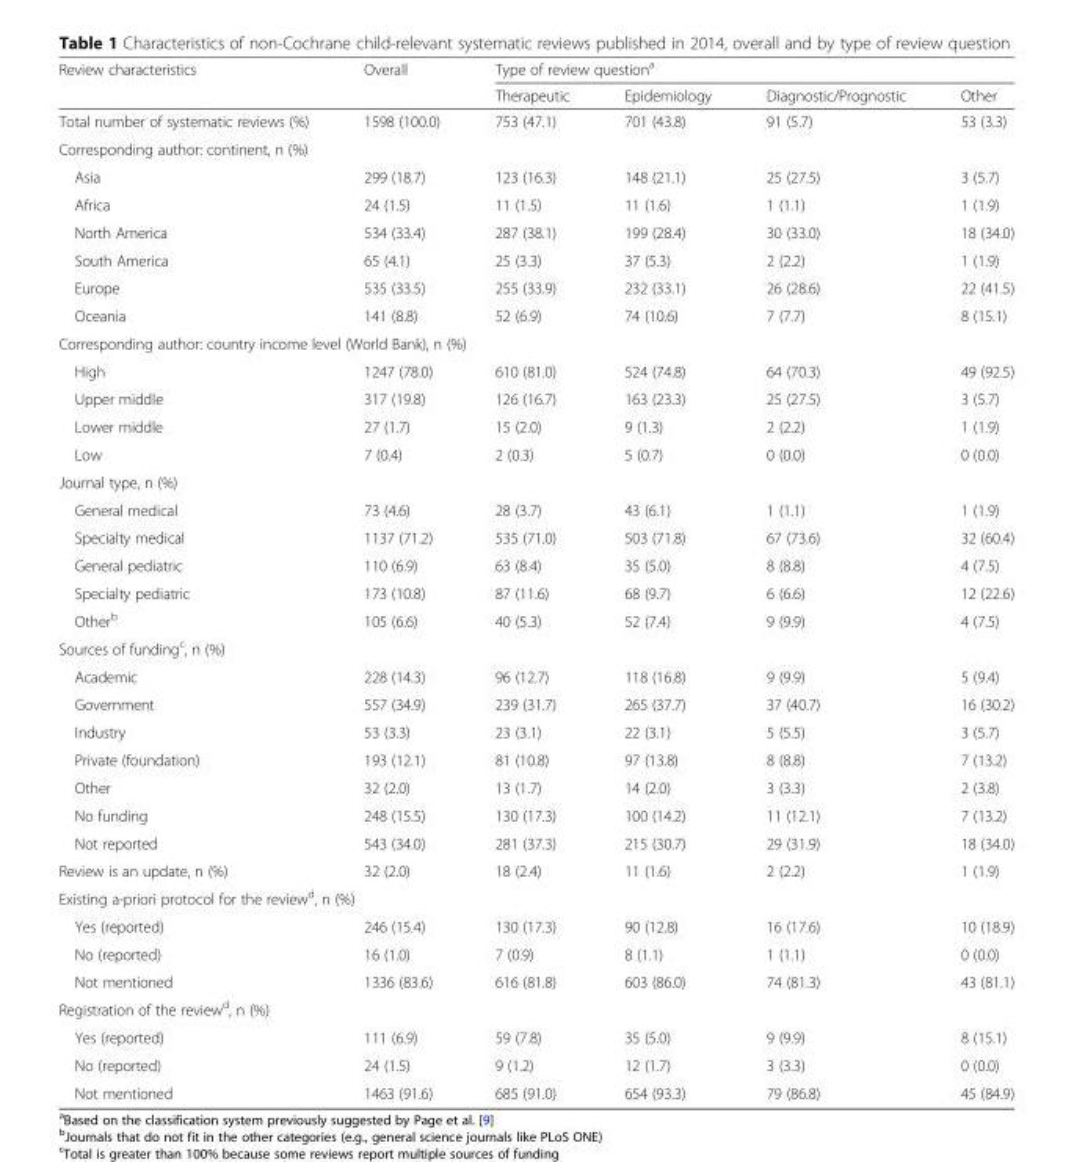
<table><thead><tr><td rowspan="2">Review characteristics</td><td rowspan="2">Overall</td><td colspan="4">Type of review question<sup>a</sup></td></tr><tr><td>Therapeutic</td><td>Epidemiology</td><td>Diagnostic/Prognostic</td><td>Other</td></tr></thead><tbody><tr><td>Total number of systematic reviews (%)</td><td>1598 (100.0)</td><td>753 (47.1)</td><td>701 (43.8)</td><td>91 (5.7)</td><td>53 (3.3)</td></tr><tr><td colspan="6">Corresponding author: continent, n (%)</td></tr><tr><td>Asia</td><td>299 (18.7)</td><td>123 (16.3)</td><td>148 (21.1)</td><td>25 (27.5)</td><td>3 (5.7)</td></tr><tr><td>Africa</td><td>24 (1.5)</td><td>11 (1.5)</td><td>11 (1.6)</td><td>1 (1.1)</td><td>1 (1.9)</td></tr><tr><td>North America</td><td>534 (33.4)</td><td>287 (38.1)</td><td>199 (28.4)</td><td>30 (33.0)</td><td>18 (34.0)</td></tr><tr><td>South America</td><td>65 (4.1)</td><td>25 (3.3)</td><td>37 (5.3)</td><td>2 (2.2)</td><td>1 (1.9)</td></tr><tr><td>Europe</td><td>535 (33.5)</td><td>255 (33.9)</td><td>232 (33.1)</td><td>26 (28.6)</td><td>22 (41.5)</td></tr><tr><td>Oceania</td><td>141 (8.8)</td><td>52 (6.9)</td><td>74 (10.6)</td><td>7 (7.7)</td><td>8 (15.1)</td></tr><tr><td colspan="6">Corresponding author: country income level (World Bank), n (%)</td></tr><tr><td>High</td><td>1247 (78.0)</td><td>610 (81.0)</td><td>524 (74.8)</td><td>64 (70.3)</td><td>49 (92.5)</td></tr><tr><td>Upper middle</td><td>317 (19.8)</td><td>126 (16.7)</td><td>163 (23.3)</td><td>25 (27.5)</td><td>3 (5.7)</td></tr><tr><td>Lower middle</td><td>27 (1.7)</td><td>15 (2.0)</td><td>9 (1.3)</td><td>2 (2.2)</td><td>1 (1.9)</td></tr><tr><td>Low</td><td>7 (0.4)</td><td>2 (0.3)</td><td>5 (0.7)</td><td>0 (0.0)</td><td>0 (0.0)</td></tr><tr><td colspan="6">Journal type, n (%)</td></tr><tr><td>General medical</td><td>73 (4.6)</td><td>28 (3.7)</td><td>43 (6.1)</td><td>1 (1.1)</td><td>1 (1.9)</td></tr><tr><td>Specialty medical</td><td>1137 (71.2)</td><td>535 (71.0)</td><td>503 (71.8)</td><td>67 (73.6)</td><td>32 (60.4)</td></tr><tr><td>General pediatric</td><td>110 (6.9)</td><td>63 (8.4)</td><td>35 (5.0)</td><td>8 (8.8)</td><td>4 (7.5)</td></tr><tr><td>Specialty pediatric</td><td>173 (10.8)</td><td>87 (11.6)</td><td>68 (9.7)</td><td>6 (6.6)</td><td>12 (22.6)</td></tr><tr><td>Other<sup>b</sup></td><td>105 (6.6)</td><td>40 (5.3)</td><td>52 (7.4)</td><td>9 (9.9)</td><td>4 (7.5)</td></tr><tr><td colspan="6">Sources of funding<sup>c</sup>, n (%)</td></tr><tr><td>Academic</td><td>228 (14.3)</td><td>96 (12.7)</td><td>118 (16.8)</td><td>9 (9.9)</td><td>5 (9.4)</td></tr><tr><td>Government</td><td>557 (34.9)</td><td>239 (31.7)</td><td>265 (37.7)</td><td>37 (40.7)</td><td>16 (30.2)</td></tr><tr><td>Industry</td><td>53 (3.3)</td><td>23 (3.1)</td><td>22 (3.1)</td><td>5 (5.5)</td><td>3 (5.7)</td></tr><tr><td>Private (foundation)</td><td>193 (12.1)</td><td>81 (10.8)</td><td>97 (13.8)</td><td>8 (8.8)</td><td>7 (13.2)</td></tr><tr><td>Other</td><td>32 (2.0)</td><td>13 (1.7)</td><td>14 (2.0)</td><td>3 (3.3)</td><td>2 (3.8)</td></tr><tr><td>No funding</td><td>248 (15.5)</td><td>130 (17.3)</td><td>100 (14.2)</td><td>11 (12.1)</td><td>7 (13.2)</td></tr><tr><td>Not reported</td><td>543 (34.0)</td><td>281 (37.3)</td><td>215 (30.7)</td><td>29 (31.9)</td><td>18 (34.0)</td></tr><tr><td>Review is an update, n (%)</td><td>32 (2.0)</td><td>18 (2.4)</td><td>11 (1.6)</td><td>2 (2.2)</td><td>1 (1.9)</td></tr><tr><td colspan="6">Existing a-priori protocol for the review<sup>d</sup>, n (%)</td></tr><tr><td>Yes (reported)</td><td>246 (15.4)</td><td>130 (17.3)</td><td>90 (12.8)</td><td>16 (17.6)</td><td>10 (18.9)</td></tr><tr><td>No (reported)</td><td>16 (1.0)</td><td>7 (0.9)</td><td>8 (1.1)</td><td>1 (1.1)</td><td>0 (0.0)</td></tr><tr><td>Not mentioned</td><td>1336 (83.6)</td><td>616 (81.8)</td><td>603 (86.0)</td><td>74 (81.3)</td><td>43 (81.1)</td></tr><tr><td colspan="6">Registration of the review<sup>d</sup>, n (%)</td></tr><tr><td>Yes (reported)</td><td>111 (6.9)</td><td>59 (7.8)</td><td>35 (5.0)</td><td>9 (9.9)</td><td>8 (15.1)</td></tr><tr><td>No (reported)</td><td>24 (1.5)</td><td>9 (1.2)</td><td>12 (1.7)</td><td>3 (3.3)</td><td>0 (0.0)</td></tr><tr><td>Not mentioned</td><td>1463 (91.6)</td><td>685 (91.0)</td><td>654 (93.3)</td><td>79 (86.8)</td><td>45 (84.9)</td></tr></tbody></table>